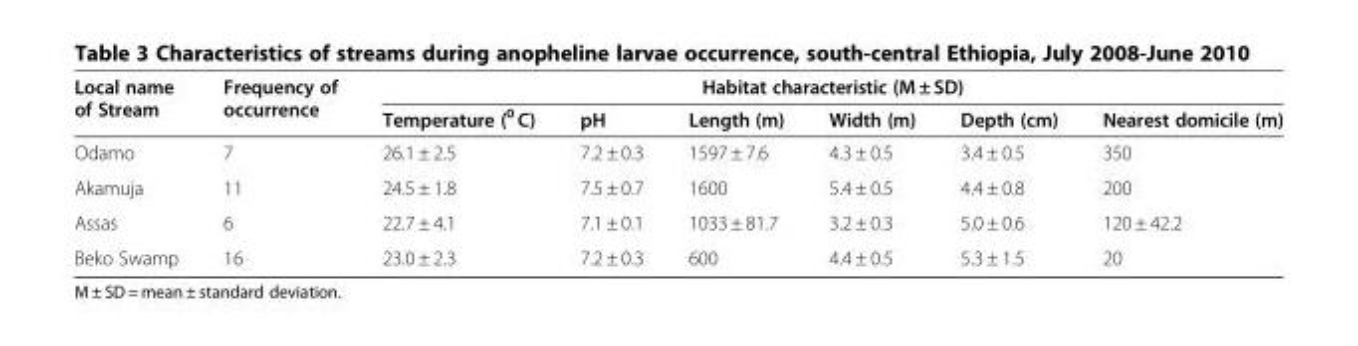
<table><thead><tr><td rowspan="2">Local name of Stream</td><td rowspan="2">Frequency of occurrence</td><td colspan="6">Habitat characteristic (M ± SD)</td></tr><tr><td>Temperature (<sup>0</sup> C)</td><td>pH</td><td>Length (m)</td><td>Width (m)</td><td>Depth (cm)</td><td>Nearest domicile (m)</td></tr></thead><tbody><tr><td>Odamo</td><td>7</td><td>26.1 ± 2.5</td><td>7.2 ± 0.3</td><td>1597 ± 7.6</td><td>4.3 ± 0.5</td><td>3.4 ± 0.5</td><td>350</td></tr><tr><td>Akamuja</td><td>11</td><td>24.5 ± 1.8</td><td>7.5 ± 0.7</td><td>1600</td><td>5.4 ± 0.5</td><td>4.4 ± 0.8</td><td>200</td></tr><tr><td>Assas</td><td>6</td><td>22.7 ± 4.1</td><td>7.1 ± 0.1</td><td>1033 ± 81.7</td><td>3.2 ± 0.3</td><td>5.0 ± 0.6</td><td>120 ± 42.2</td></tr><tr><td>Beko Swamp</td><td>16</td><td>23.0 ± 2.3</td><td>7.2 ± 0.3</td><td>600</td><td>4.4 ± 0.5</td><td>5.3 ± 1.5</td><td>20</td></tr></tbody></table>